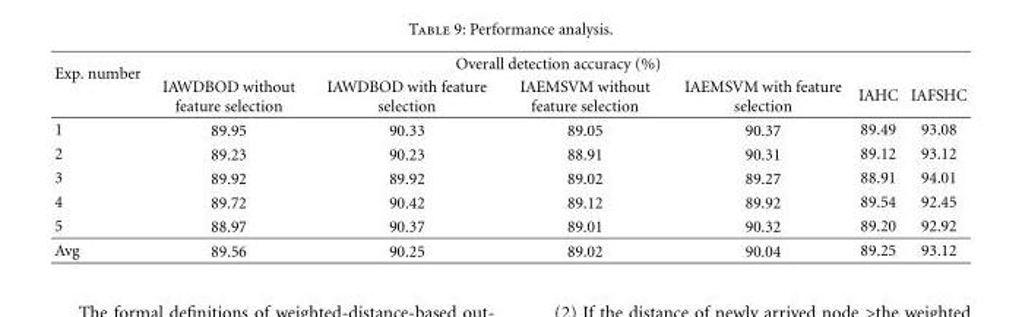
<table><thead><tr><td rowspan="2">Exp. number</td><td colspan="6">Overall detection accuracy (%)</td></tr><tr><td>IAWDBOD without feature selection</td><td>IAWDBOD with feature selection</td><td>IAEMSVM without feature selection</td><td>IAEMSVM with feature selection</td><td>IAHC</td><td>IAFSHC</td></tr></thead><tbody><tr><td>1</td><td>89.95</td><td>90.33</td><td>89.05</td><td>90.37</td><td>89.49</td><td>93.08</td></tr><tr><td>2</td><td>89.23</td><td>90.23</td><td>88.91</td><td>90.31</td><td>89.12</td><td>93.12</td></tr><tr><td>3</td><td>89.92</td><td>89.92</td><td>89.02</td><td>89.27</td><td>88.91</td><td>94.01</td></tr><tr><td>4</td><td>89.72</td><td>90.42</td><td>89.12</td><td>89.92</td><td>89.54</td><td>92.45</td></tr><tr><td>5</td><td>88.97</td><td>90.37</td><td>89.01</td><td>90.32</td><td>89.20</td><td>92.92</td></tr><tr><td>Avg</td><td>89.56</td><td>90.25</td><td>89.02</td><td>90.04</td><td>89.25</td><td>93.12</td></tr></tbody></table>